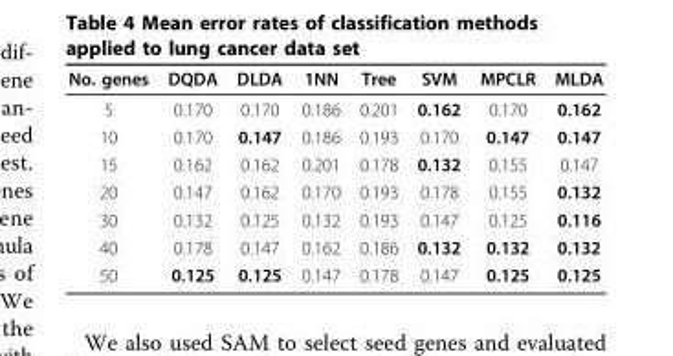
<table><thead><tr><td>No. genes</td><td>DQDA</td><td>DLDA</td><td>1NN</td><td>Tree</td><td>SVM</td><td>MPCLR</td><td>MLDA</td></tr></thead><tbody><tr><td>5</td><td>0.170</td><td>0.170</td><td>0.186</td><td>0.201</td><td>0.162</td><td>0.170</td><td>0.162</td></tr><tr><td>10</td><td>0.170</td><td>0.147</td><td>0.186</td><td>0.193</td><td>0.170</td><td>0.147</td><td>0.147</td></tr><tr><td>15</td><td>0.162</td><td>0.162</td><td>0.201</td><td>0.178</td><td>0.132</td><td>0.155</td><td>0.147</td></tr><tr><td>20</td><td>0.147</td><td>0.162</td><td>0.170</td><td>0.193</td><td>0.178</td><td>0.155</td><td>0.132</td></tr><tr><td>30</td><td>0.132</td><td>0.125</td><td>0.132</td><td>0.193</td><td>0.147</td><td>0.125</td><td>0.116</td></tr><tr><td>40</td><td>0.178</td><td>0.147</td><td>0.162</td><td>0.186</td><td>0.132</td><td>0.132</td><td>0.132</td></tr><tr><td>50</td><td>0.125</td><td>0.125</td><td>0.147</td><td>0.178</td><td>0.147</td><td>0.125</td><td>0.125</td></tr></tbody></table>